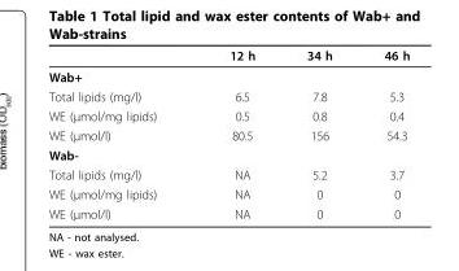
<table><thead><tr><td></td><td>12 h</td><td>34 h</td><td>46 h</td></tr></thead><tbody><tr><td colspan="4">Wab+</td></tr><tr><td>Total lipids (mg/l)</td><td>6.5</td><td>7.8</td><td>5.3</td></tr><tr><td>WE (μmol/mg lipids)</td><td>0.5</td><td>0.8</td><td>0.4</td></tr><tr><td>WE (μmol/l)</td><td>80.5</td><td>156</td><td>54.3</td></tr><tr><td colspan="4">Wab-</td></tr><tr><td>Total lipids (mg/l)</td><td>NA</td><td>5.2</td><td>3.7</td></tr><tr><td>WE (μmol/mg lipids)</td><td>NA</td><td>0</td><td>0</td></tr><tr><td>WE (μmol/l)</td><td>NA</td><td>0</td><td>0</td></tr></tbody></table>